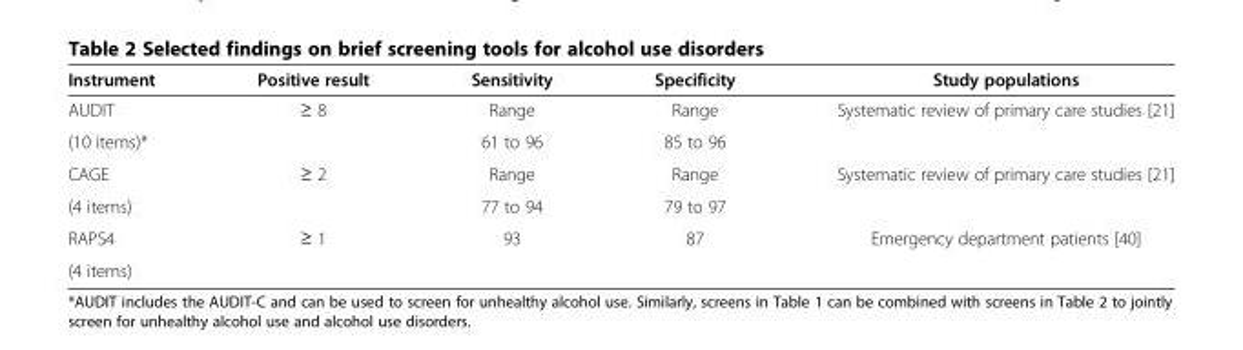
<table><thead><tr><td>Instrument</td><td>Positive result</td><td>Sensitivity</td><td>Specificity</td><td>Study populations</td></tr></thead><tbody><tr><td>AUDIT</td><td rowspan="2">≥ 8</td><td>Range</td><td>Range</td><td rowspan="2">Systematic review of primary care studies [21]</td></tr><tr><td>(10 items)*</td><td>61 to 96</td><td>85 to 96</td></tr><tr><td>CAGE</td><td rowspan="2">≥ 2</td><td>Range</td><td>Range</td><td rowspan="2">Systematic review of primary care studies [21]</td></tr><tr><td>(4 items)</td><td>77 to 94</td><td>79 to 97</td></tr><tr><td>RAPS4</td><td>≥ 1</td><td>93</td><td>87</td><td>Emergency department patients [40]</td></tr><tr><td>(4 items)</td><td colspan="4"></td></tr></tbody></table>